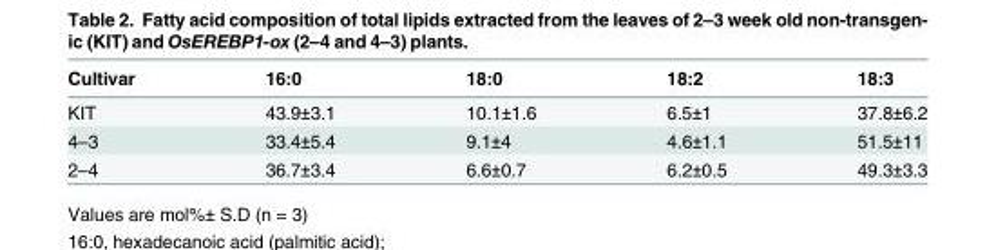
<table><thead><tr><td>Cultivar</td><td>16:0</td><td>18:0</td><td>18:2</td><td>18:3</td></tr></thead><tbody><tr><td>KIT</td><td>43.9±3.1</td><td>10.1±1.6</td><td>6.5±1</td><td>37.8±6.2</td></tr><tr><td>4–3</td><td>33.4±5.4</td><td>9.1±4</td><td>4.6±1.1</td><td>51.5±11</td></tr><tr><td>2–4</td><td>36.7±3.4</td><td>6.6±0.7</td><td>6.2±0.5</td><td>49.3±3.3</td></tr></tbody></table>